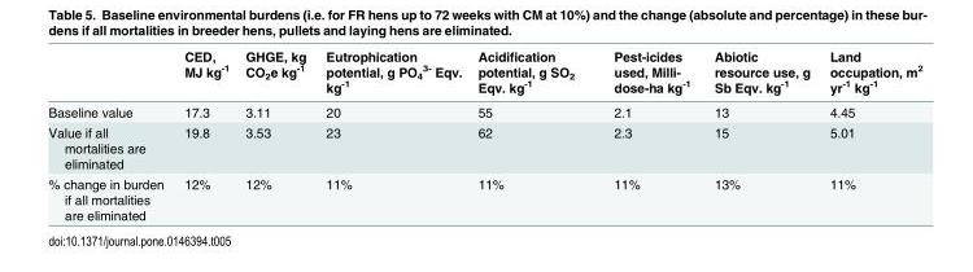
<table><thead><tr><td></td><td>CED, MJ kg<sup>-1</sup></td><td>GHGE, kg CO<sub>2</sub>e kg<sup>-1</sup></td><td>Eutrophication potential, g PO<sub>4</sub> <sup>3-</sup> Eqv. kg<sup>-1</sup></td><td>Acidification potential, g SO<sub>2</sub> Eqv. kg<sup>-1</sup></td><td>Pest-icides used, Milli- dose-ha kg<sup>-1</sup></td><td>Abiotic resource use, g Sb Eqv. kg<sup>-1</sup></td><td>Land occupation, m<sup>2</sup> yr<sup>-1</sup> kg<sup>-1</sup></td></tr></thead><tbody><tr><td>Baseline value</td><td>17.3</td><td>3.11</td><td>20</td><td>55</td><td>2.1</td><td>13</td><td>4.45</td></tr><tr><td>Value if all mortalities are eliminated</td><td>19.8</td><td>3.53</td><td>23</td><td>62</td><td>2.3</td><td>15</td><td>5.01</td></tr><tr><td>% change in burden if all mortalities are eliminated</td><td>12%</td><td>12%</td><td>11%</td><td>11%</td><td>11%</td><td>13%</td><td>11%</td></tr></tbody></table>